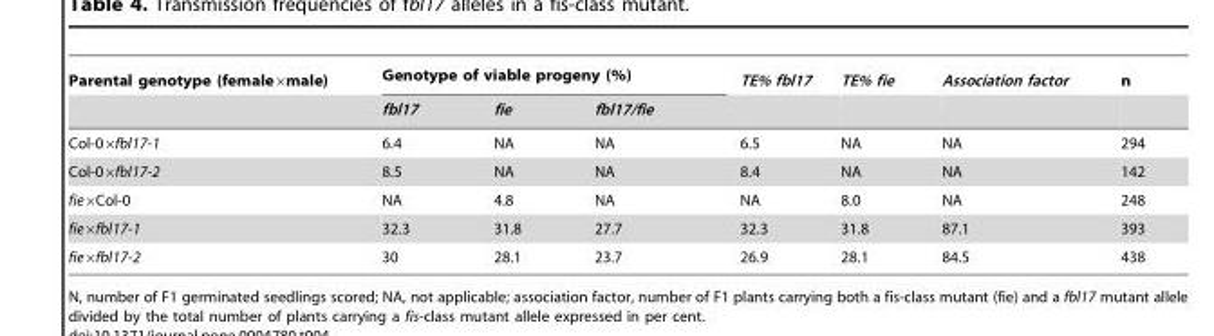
<table><thead><tr><td rowspan="2">Parental genotype (female×male)</td><td colspan="3">Genotype of viable progeny (%)</td><td rowspan="2">TE% fbl17</td><td rowspan="2">TE% fie</td><td rowspan="2">Association factor</td><td rowspan="2">n</td></tr><tr><td>fbl17</td><td>fie</td><td>fbl17/fie</td></tr></thead><tbody><tr><td>Col-0×fbl17-1</td><td>6.4</td><td>NA</td><td>NA</td><td>6.5</td><td>NA</td><td>NA</td><td>294</td></tr><tr><td>Col-0×fbl17-2</td><td>8.5</td><td>NA</td><td>NA</td><td>8.4</td><td>NA</td><td>NA</td><td>142</td></tr><tr><td>fie×Col-0</td><td>NA</td><td>4.8</td><td>NA</td><td>NA</td><td>8.0</td><td>NA</td><td>248</td></tr><tr><td>fie×fbl17-1</td><td>32.3</td><td>31.8</td><td>27.7</td><td>32.3</td><td>31.8</td><td>87.1</td><td>393</td></tr><tr><td>fie×fbl17-2</td><td>30</td><td>28.1</td><td>23.7</td><td>26.9</td><td>28.1</td><td>84.5</td><td>438</td></tr></tbody></table>